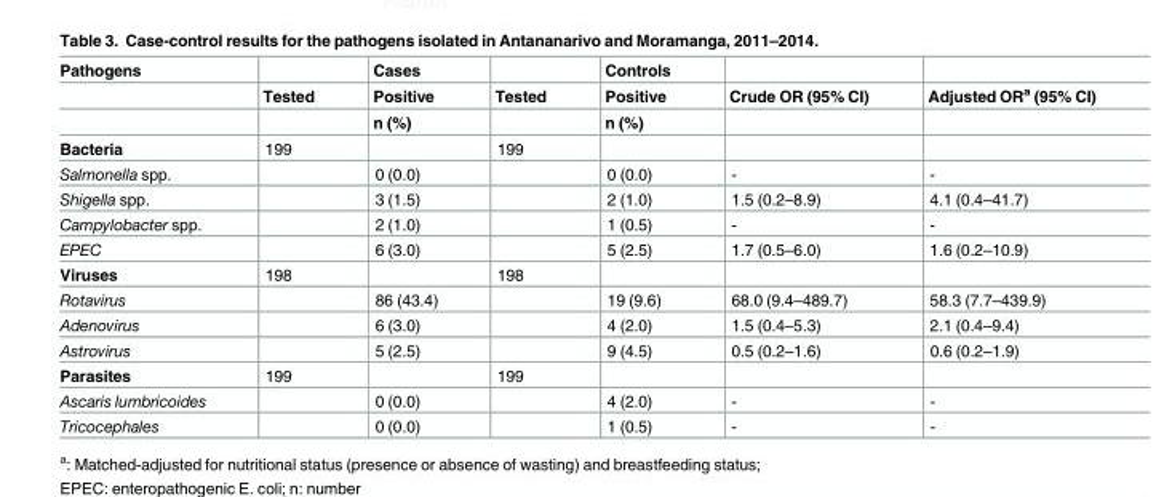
<table><thead><tr><td rowspan="3">Pathogens</td><td rowspan="3">Tested</td><td rowspan="3">Cases Positive n (%)</td><td rowspan="3">Tested</td><td rowspan="3">Controls Positive n (%)</td><td rowspan="3">Crude OR (95% CI)</td><td rowspan="3">Adjusted OR<sup>a</sup> (95% CI)</td></tr><tr></tr><tr></tr></thead><tbody><tr><td>Bacteria</td><td>199</td><td></td><td>199</td><td></td><td></td><td></td></tr><tr><td>Salmonella spp.</td><td></td><td>0 (0.0)</td><td></td><td>0 (0.0)</td><td>-</td><td>-</td></tr><tr><td>Shigella spp.</td><td></td><td>3 (1.5)</td><td></td><td>2 (1.0)</td><td>1.5 (0.2–8.9)</td><td>4.1 (0.4–41.7)</td></tr><tr><td>Campylobacter spp.</td><td></td><td>2 (1.0)</td><td></td><td>1 (0.5)</td><td>-</td><td>-</td></tr><tr><td>EPEC</td><td></td><td>6 (3.0)</td><td></td><td>5 (2.5)</td><td>1.7 (0.5–6.0)</td><td>1.6 (0.2–10.9)</td></tr><tr><td>Viruses</td><td>198</td><td></td><td>198</td><td></td><td></td><td></td></tr><tr><td>Rotavirus</td><td></td><td>86 (43.4)</td><td></td><td>19 (9.6)</td><td>68.0 (9.4–489.7)</td><td>58.3 (7.7–439.9)</td></tr><tr><td>Adenovirus</td><td></td><td>6 (3.0)</td><td></td><td>4 (2.0)</td><td>1.5 (0.4–5.3)</td><td>2.1 (0.4–9.4)</td></tr><tr><td>Astrovirus</td><td></td><td>5 (2.5)</td><td></td><td>9 (4.5)</td><td>0.5 (0.2–1.6)</td><td>0.6 (0.2–1.9)</td></tr><tr><td>Parasites</td><td>199</td><td></td><td>199</td><td></td><td></td><td></td></tr><tr><td>Ascaris lumbricoides</td><td></td><td>0 (0.0)</td><td></td><td>4 (2.0)</td><td>-</td><td>-</td></tr><tr><td>Tricocephales</td><td></td><td>0 (0.0)</td><td></td><td>1 (0.5)</td><td>-</td><td>-</td></tr></tbody></table>